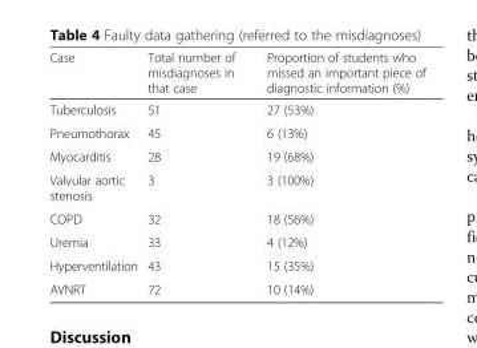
<table><thead><tr><td>Case</td><td>Total number of misdiagnoses in that case</td><td>Proportion of students who missed an important piece of diagnostic information (%)</td></tr></thead><tbody><tr><td>Tuberculosis</td><td>51</td><td>27 (53%)</td></tr><tr><td>Pneumothorax</td><td>45</td><td>6 (13%)</td></tr><tr><td>Myocarditis</td><td>28</td><td>19 (68%)</td></tr><tr><td>Valvular aortic stenosis</td><td>3</td><td>3 (100%)</td></tr><tr><td>COPD</td><td>32</td><td>18 (56%)</td></tr><tr><td>Uremia</td><td>33</td><td>4 (12%)</td></tr><tr><td>Hyperventilation</td><td>43</td><td>15 (35%)</td></tr><tr><td>AVNRT</td><td>72</td><td>10 (14%)</td></tr></tbody></table>